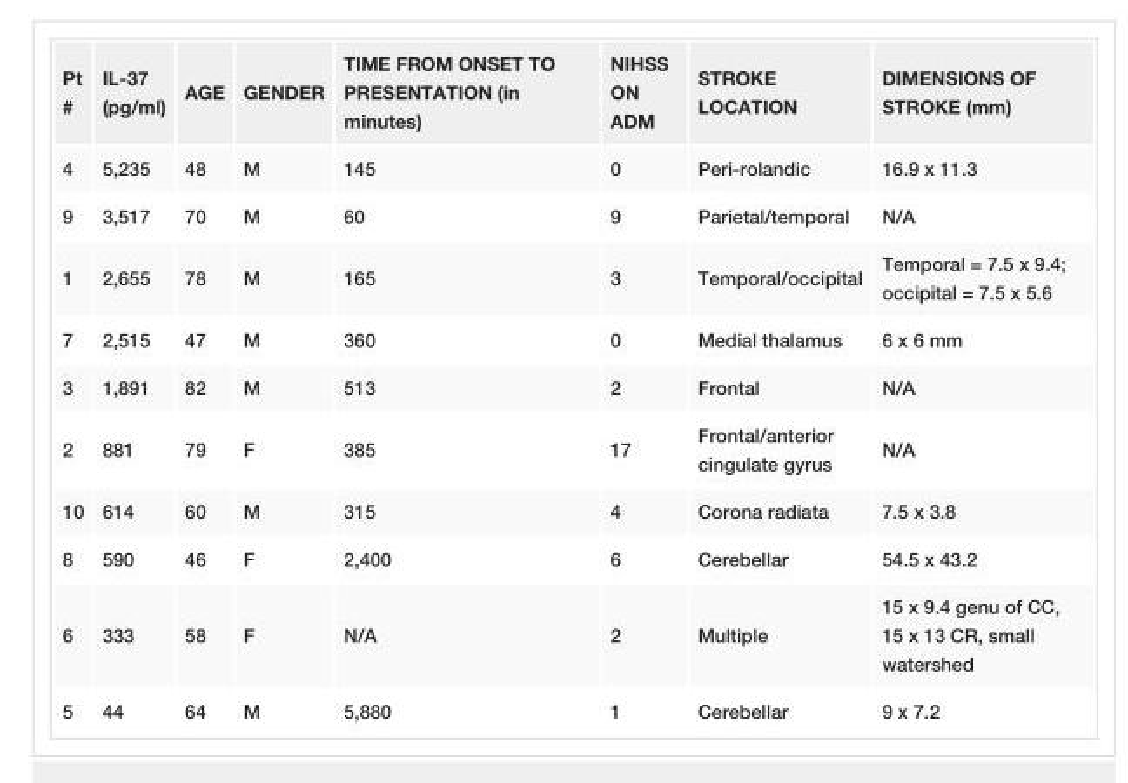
<table><tbody><tr><td>Pt #</td><td>IL-37 (pg/ml)</td><td>AGE</td><td>GENDER</td><td>TIME FROM ONSET TO PRESENTATION (in minutes)</td><td>NIHSS ON ADM</td><td>STROKE LOCATION</td><td>DIMENSIONS OF STROKE (mm)</td></tr><tr><td>4</td><td>5,235</td><td>48</td><td>M</td><td>145</td><td>0</td><td>Peri-rolandic</td><td>16.9 x 11.3</td></tr><tr><td>9</td><td>3,517</td><td>70</td><td>M</td><td>60</td><td>9</td><td>Parietal/temporal</td><td>N/A</td></tr><tr><td>1</td><td>2,655</td><td>78</td><td>M</td><td>165</td><td>3</td><td>Temporal/occipital</td><td>Temporal = 7.5 x 9.4; occipital = 7.5 x 5.6</td></tr><tr><td>7</td><td>2,515</td><td>47</td><td>M</td><td>360</td><td>0</td><td>Medial thalamus</td><td>6 x 6 mm</td></tr><tr><td>3</td><td>1,891</td><td>82</td><td>M</td><td>513</td><td>2</td><td>Frontal</td><td>N/A</td></tr><tr><td>2</td><td>881</td><td>79</td><td>F</td><td>385</td><td>17</td><td>Frontal/anterior cingulate gyrus</td><td>N/A</td></tr><tr><td>10</td><td>614</td><td>60</td><td>M</td><td>315</td><td>4</td><td>Corona radiata</td><td>7.5 x 3.8</td></tr><tr><td>8</td><td>590</td><td>46</td><td>F</td><td>2,400</td><td>6</td><td>Cerebellar</td><td>54.5 x 43.2</td></tr><tr><td>6</td><td>333</td><td>58</td><td>F</td><td>N/A</td><td>2</td><td>Multiple</td><td>15 x 9.4 genu of CC, 15 x 13 CR, small watershed</td></tr><tr><td>5</td><td>44</td><td>64</td><td>M</td><td>5,880</td><td>1</td><td>Cerebellar</td><td>9 x 7.2</td></tr></tbody></table>